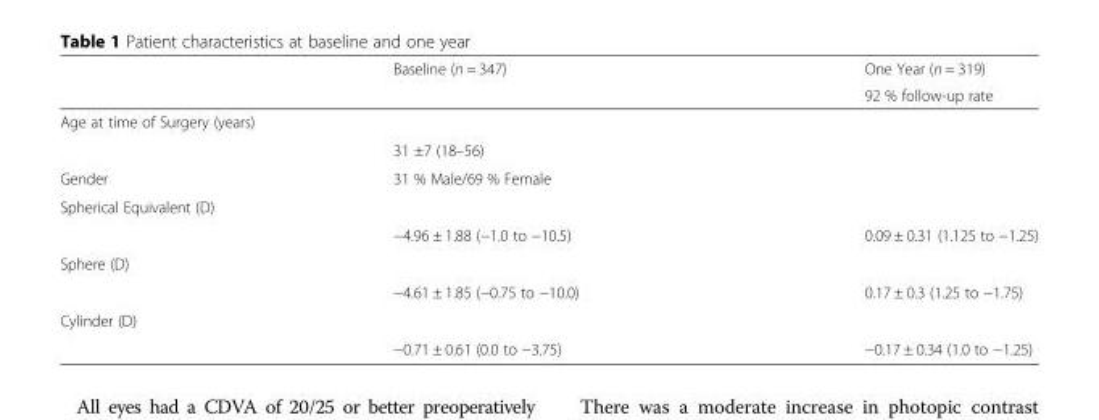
<table><thead><tr><td rowspan="2"></td><td rowspan="2">Baseline (n = 347)</td><td rowspan="2">One Year (n = 319) 92 % follow-up rate</td></tr><tr></tr></thead><tbody><tr><td colspan="3">Age at time of Surgery (years)</td></tr><tr><td></td><td>31 ±7 (18–56)</td><td></td></tr><tr><td>Gender</td><td>31 % Male/69 % Female</td><td></td></tr><tr><td colspan="3">Spherical Equivalent (D)</td></tr><tr><td></td><td>−4.96 ± 1.88 (−1.0 to −10.5)</td><td>0.09 ± 0.31 (1.125 to −1.25)</td></tr><tr><td colspan="3">Sphere (D)</td></tr><tr><td></td><td>−4.61 ± 1.85 (−0.75 to −10.0)</td><td>0.17 ± 0.3 (1.25 to −1.75)</td></tr><tr><td colspan="3">Cylinder (D)</td></tr><tr><td></td><td>−0.71 ± 0.61 (0.0 to −3.75)</td><td>−0.17 ± 0.34 (1.0 to −1.25)</td></tr></tbody></table>